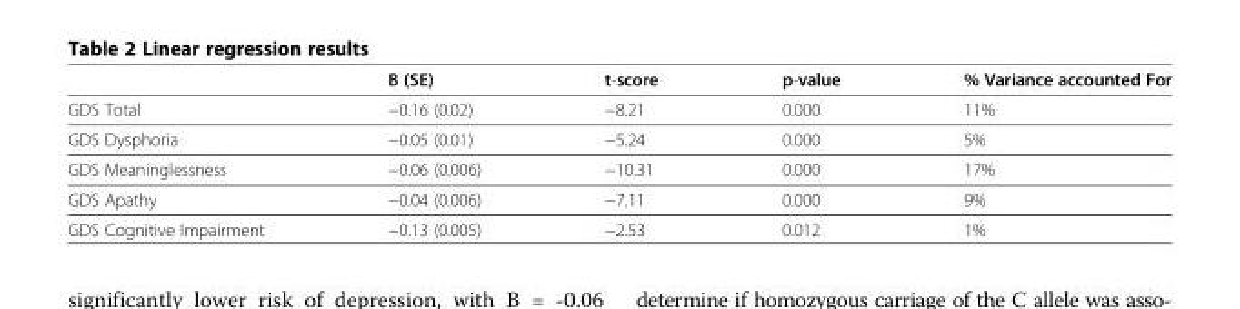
<table><thead><tr><td></td><td>B (SE)</td><td>t-score</td><td>p-value</td><td>% Variance accounted For</td></tr></thead><tbody><tr><td>GDS Total</td><td>−0.16 (0.02)</td><td>−8.21</td><td>0.000</td><td>11%</td></tr><tr><td>GDS Dysphoria</td><td>−0.05 (0.01)</td><td>−5.24</td><td>0.000</td><td>5%</td></tr><tr><td>GDS Meaninglessness</td><td>−0.06 (0.006)</td><td>−10.31</td><td>0.000</td><td>17%</td></tr><tr><td>GDS Apathy</td><td>−0.04 (0.006)</td><td>−7.11</td><td>0.000</td><td>9%</td></tr><tr><td>GDS Cognitive Impairment</td><td>−0.13 (0.005)</td><td>−2.53</td><td>0.012</td><td>1%</td></tr></tbody></table>